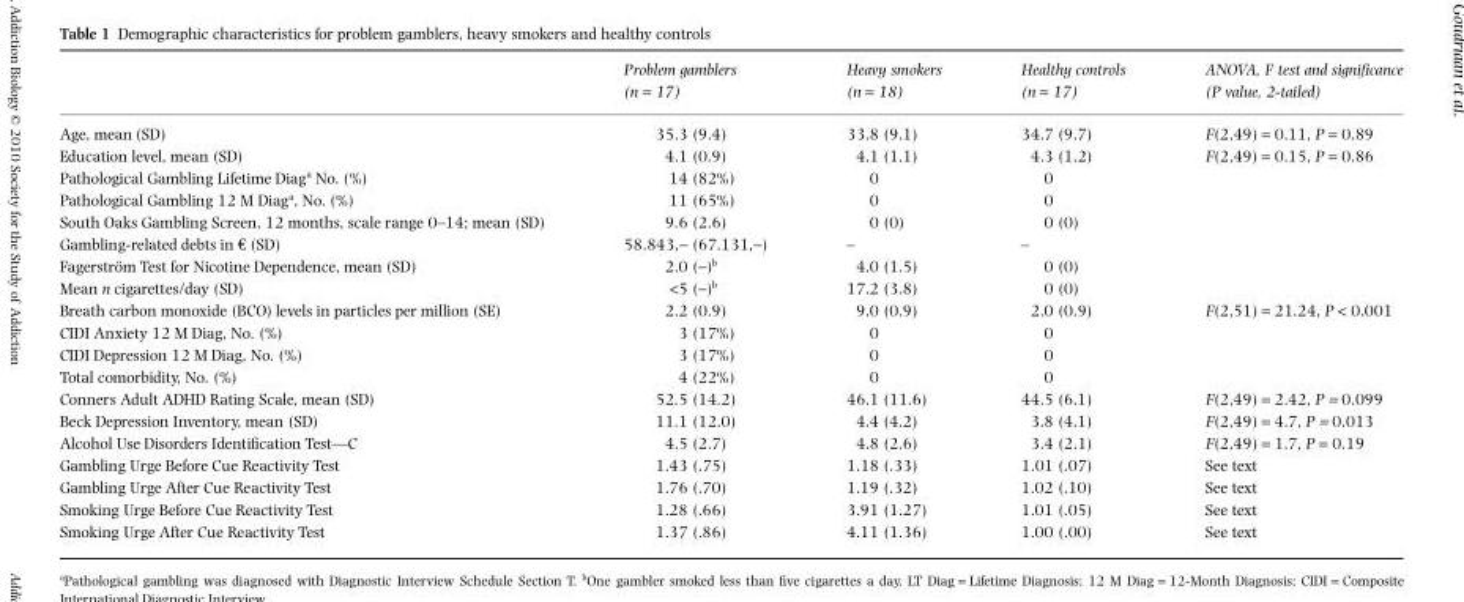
<table><thead><tr><td></td><td>Problem gamblers (n = 17)</td><td>Heavy smokers (n = 18)</td><td>Healthy controls (n = 17)</td><td>ANOVA, F test and significance (P value, 2-tailed)</td></tr></thead><tbody><tr><td>Age, mean (SD)</td><td>35.3 (9.4)</td><td>33.8 (9.1)</td><td>34.7 (9.7)</td><td>F(2,49) = 0.11, P = 0.89</td></tr><tr><td>Education level, mean (SD)</td><td>4.1 (0.9)</td><td>4.1 (1.1)</td><td>4.3 (1.2)</td><td>F(2,49) = 0.15, P = 0.86</td></tr><tr><td>Pathological Gambling Lifetime Diag<sup>a</sup> No. (%)</td><td>14 (82%)</td><td>0</td><td>0</td><td></td></tr><tr><td>Pathological Gambling 12 M Diag<sup>a</sup>, No. (%)</td><td>11 (65%)</td><td>0</td><td>0</td><td></td></tr><tr><td>South Oaks Gambling Screen, 12 months, scale range 0–14; mean (SD)</td><td>9.6 (2.6)</td><td>0 (0)</td><td>0 (0)</td><td></td></tr><tr><td>Gambling-related debts in € (SD)</td><td>58.843,- (67.131,-)</td><td>–</td><td>–</td><td></td></tr><tr><td>Fagerström Test for Nicotine Dependence, mean (SD)</td><td>2.0 (-)<sup>b</sup></td><td>4.0 (1.5)</td><td>0 (0)</td><td></td></tr><tr><td>Mean n cigarettes/day (SD)</td><td>&lt;5 (-)<sup>b</sup></td><td>17.2 (3.8)</td><td>0 (0)</td><td></td></tr><tr><td>Breath carbon monoxide (BCO) levels in particles per million (SE)</td><td>2.2 (0.9)</td><td>9.0 (0.9)</td><td>2.0 (0.9)</td><td>F(2,51) = 21.24, P &lt; 0.001</td></tr><tr><td>CIDI Anxiety 12 M Diag, No. (%)</td><td>3 (17%)</td><td>0</td><td>0</td><td></td></tr><tr><td>CIDI Depression 12 M Diag, No. (%)</td><td>3 (17%)</td><td>0</td><td>0</td><td></td></tr><tr><td>Total comorbidity, No. (%)</td><td>4 (22%)</td><td>0</td><td>0</td><td></td></tr><tr><td>Conners Adult ADHD Rating Scale, mean (SD)</td><td>52.5 (14.2)</td><td>46.1 (11.6)</td><td>44.5 (6.1)</td><td>F(2,49) = 2.42, P = 0.099</td></tr><tr><td>Beck Depression Inventory, mean (SD)</td><td>11.1 (12.0)</td><td>4.4 (4.2)</td><td>3.8 (4.1)</td><td>F(2,49) = 4.7, P = 0.013</td></tr><tr><td>Alcohol Use Disorders Identification Test—C</td><td>4.5 (2.7)</td><td>4.8 (2.6)</td><td>3.4 (2.1)</td><td>F(2,49) = 1.7, P = 0.19</td></tr><tr><td>Gambling Urge Before Cue Reactivity Test</td><td>1.43 (.75)</td><td>1.18 (.33)</td><td>1.01 (.07)</td><td>See text</td></tr><tr><td>Gambling Urge After Cue Reactivity Test</td><td>1.76 (.70)</td><td>1.19 (.32)</td><td>1.02 (.10)</td><td>See text</td></tr><tr><td>Smoking Urge Before Cue Reactivity Test</td><td>1.28 (.66)</td><td>3.91 (1.27)</td><td>1.01 (.05)</td><td>See text</td></tr><tr><td>Smoking Urge After Cue Reactivity Test</td><td>1.37 (.86)</td><td>4.11 (1.36)</td><td>1.00 (.00)</td><td>See text</td></tr></tbody></table>